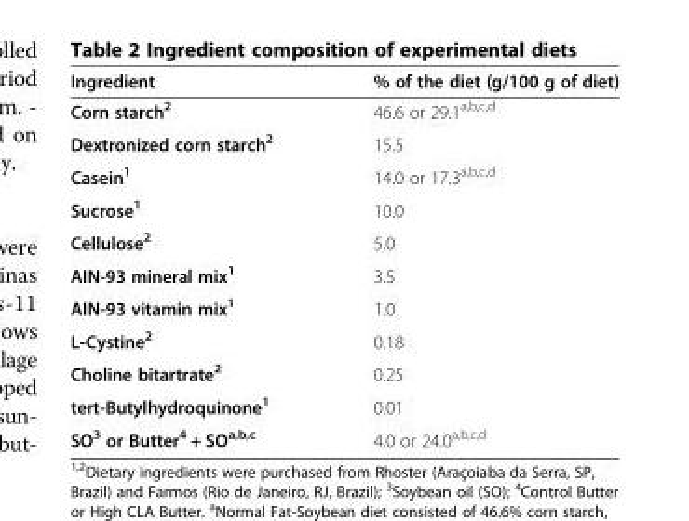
<table><thead><tr><td>Ingredient</td><td>% of the diet (g/100 g of diet)</td></tr></thead><tbody><tr><td>Corn starch<sup>2</sup></td><td>46.6 or 29.1<sup>a,b,c,d</sup></td></tr><tr><td>Dextronized corn starch<sup>2</sup></td><td>15.5</td></tr><tr><td>Casein<sup>1</sup></td><td>14.0 or 17.3<sup>a,b,c,d</sup></td></tr><tr><td>Sucrose<sup>1</sup></td><td>10.0</td></tr><tr><td>Cellulose<sup>2</sup></td><td>5.0</td></tr><tr><td>AIN-93 mineral mix<sup>1</sup></td><td>3.5</td></tr><tr><td>AIN-93 vitamin mix<sup>1</sup></td><td>1.0</td></tr><tr><td>L-Cystine<sup>2</sup></td><td>0.18</td></tr><tr><td>Choline bitartrate<sup>2</sup></td><td>0.25</td></tr><tr><td>tert-Butylhydroquinone<sup>1</sup></td><td>0.01</td></tr><tr><td>SO<sup>3</sup> or Butter<sup>4</sup> + SO<sup>a,b,c</sup></td><td>4.0 or 24.0<sup>a,b,c,d</sup></td></tr></tbody></table>